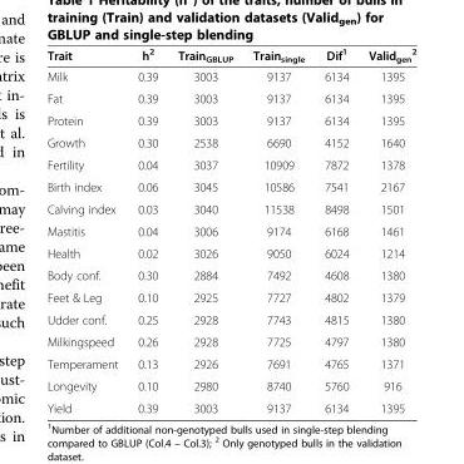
<table><thead><tr><td>Trait</td><td>h<sup>2</sup></td><td>Train<sub>GBLUP</sub></td><td>Train<sub>single</sub></td><td>Dif<sup>1</sup></td><td>Valid<sub>gen</sub> <sup>2</sup></td></tr></thead><tbody><tr><td>Milk</td><td>0.39</td><td>3003</td><td>9137</td><td>6134</td><td>1395</td></tr><tr><td>Fat</td><td>0.39</td><td>3003</td><td>9137</td><td>6134</td><td>1395</td></tr><tr><td>Protein</td><td>0.39</td><td>3003</td><td>9137</td><td>6134</td><td>1395</td></tr><tr><td>Growth</td><td>0.30</td><td>2538</td><td>6690</td><td>4152</td><td>1640</td></tr><tr><td>Fertility</td><td>0.04</td><td>3037</td><td>10909</td><td>7872</td><td>1378</td></tr><tr><td>Birth index</td><td>0.06</td><td>3045</td><td>10586</td><td>7541</td><td>2167</td></tr><tr><td>Calving index</td><td>0.03</td><td>3040</td><td>11538</td><td>8498</td><td>1501</td></tr><tr><td>Mastitis</td><td>0.04</td><td>3006</td><td>9174</td><td>6168</td><td>1461</td></tr><tr><td>Health</td><td>0.02</td><td>3026</td><td>9050</td><td>6024</td><td>1214</td></tr><tr><td>Body conf.</td><td>0.30</td><td>2884</td><td>7492</td><td>4608</td><td>1380</td></tr><tr><td>Feet &amp; Leg</td><td>0.10</td><td>2925</td><td>7727</td><td>4802</td><td>1379</td></tr><tr><td>Udder conf.</td><td>0.25</td><td>2928</td><td>7743</td><td>4815</td><td>1380</td></tr><tr><td>Milkingspeed</td><td>0.26</td><td>2928</td><td>7725</td><td>4797</td><td>1380</td></tr><tr><td>Temperament</td><td>0.13</td><td>2926</td><td>7691</td><td>4765</td><td>1371</td></tr><tr><td>Longevity</td><td>0.10</td><td>2980</td><td>8740</td><td>5760</td><td>916</td></tr><tr><td>Yield</td><td>0.39</td><td>3003</td><td>9137</td><td>6134</td><td>1395</td></tr></tbody></table>